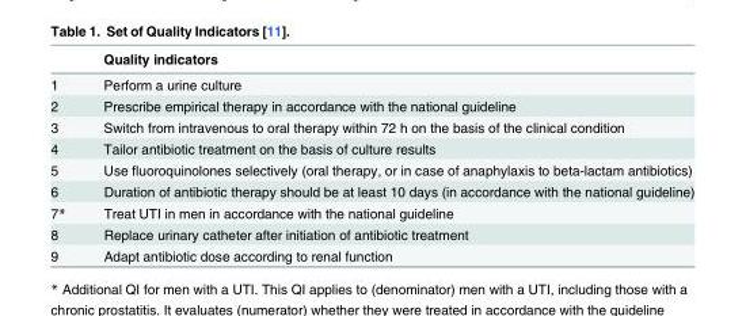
<table><thead><tr><td></td><td>Quality indicators</td></tr></thead><tbody><tr><td>1</td><td>Perform a urine culture</td></tr><tr><td>2</td><td>Prescribe empirical therapy in accordance with the national guideline</td></tr><tr><td>3</td><td>Switch from intravenous to oral therapy within 72 h on the basis of the clinical condition</td></tr><tr><td>4</td><td>Tailor antibiotic treatment on the basis of culture results</td></tr><tr><td>5</td><td>Use fluoroquinolones selectively (oral therapy, or in case of anaphylaxis to beta-lactam antibiotics)</td></tr><tr><td>6</td><td>Duration of antibiotic therapy should be at least 10 days (in accordance with the national guideline)</td></tr><tr><td>7*</td><td>Treat UTI in men in accordance with the national guideline</td></tr><tr><td>8</td><td>Replace urinary catheter after initiation of antibiotic treatment</td></tr><tr><td>9</td><td>Adapt antibiotic dose according to renal function</td></tr></tbody></table>